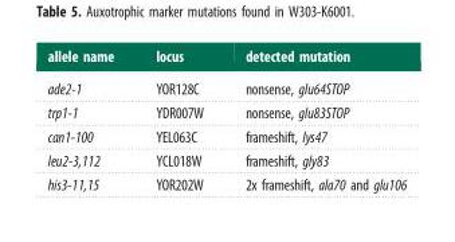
<table><thead><tr><td>allele name</td><td>locus</td><td>detected mutation</td></tr></thead><tbody><tr><td>ade2-1</td><td>YOR128C</td><td>nonsense, glu64STOP</td></tr><tr><td>trp1-1</td><td>YDR007W</td><td>nonsense, glu83STOP</td></tr><tr><td>can1-100</td><td>YEL063C</td><td>frameshift, lys47</td></tr><tr><td>leu2-3,112</td><td>YCL018W</td><td>frameshift, gly83</td></tr><tr><td>his3-11,15</td><td>YOR202W</td><td>2x frameshift, ala70 and glu106</td></tr></tbody></table>